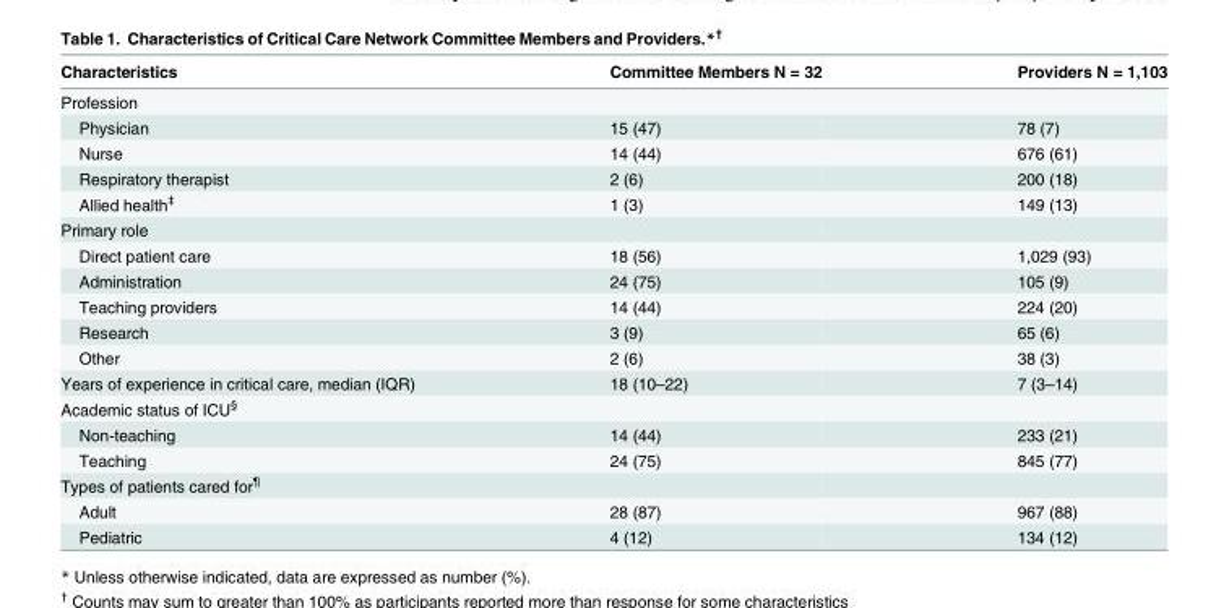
<table><thead><tr><td>Characteristics</td><td>Committee Members N = 32</td><td>Providers N = 1,103</td></tr></thead><tbody><tr><td colspan="3">Profession</td></tr><tr><td>Physician</td><td>15 (47)</td><td>78 (7)</td></tr><tr><td>Nurse</td><td>14 (44)</td><td>676 (61)</td></tr><tr><td>Respiratory therapist</td><td>2 (6)</td><td>200 (18)</td></tr><tr><td>Allied health<sup>‡</sup></td><td>1 (3)</td><td>149 (13)</td></tr><tr><td colspan="3">Primary role</td></tr><tr><td>Direct patient care</td><td>18 (56)</td><td>1,029 (93)</td></tr><tr><td>Administration</td><td>24 (75)</td><td>105 (9)</td></tr><tr><td>Teaching providers</td><td>14 (44)</td><td>224 (20)</td></tr><tr><td>Research</td><td>3 (9)</td><td>65 (6)</td></tr><tr><td>Other</td><td>2 (6)</td><td>38 (3)</td></tr><tr><td>Years of experience in critical care, median (IQR)</td><td>18 (10–22)</td><td>7 (3–14)</td></tr><tr><td colspan="3">Academic status of ICU<sup>§</sup></td></tr><tr><td>Non-teaching</td><td>14 (44)</td><td>233 (21)</td></tr><tr><td>Teaching</td><td>24 (75)</td><td>845 (77)</td></tr><tr><td colspan="3">Types of patients cared for<sup>¶</sup></td></tr><tr><td>Adult</td><td>28 (87)</td><td>967 (88)</td></tr><tr><td>Pediatric</td><td>4 (12)</td><td>134 (12)</td></tr></tbody></table>